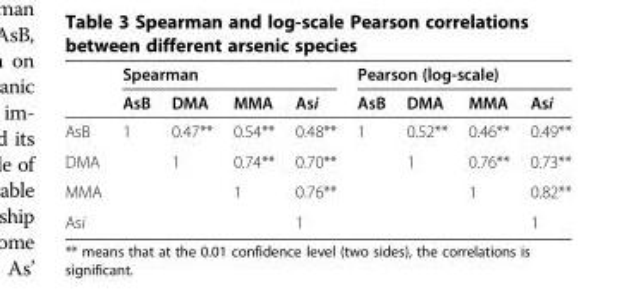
<table><thead><tr><td rowspan="2"></td><td colspan="4">Spearman</td><td colspan="4">Pearson (log-scale)</td></tr><tr><td>AsB</td><td>DMA</td><td>MMA</td><td>Asi</td><td>AsB</td><td>DMA</td><td>MMA</td><td>Asi</td></tr></thead><tbody><tr><td>AsB</td><td>1</td><td>0.47**</td><td>0.54**</td><td>0.48**</td><td>1</td><td>0.52**</td><td>0.46**</td><td>0.49**</td></tr><tr><td>DMA</td><td></td><td>1</td><td>0.74**</td><td>0.70**</td><td></td><td>1</td><td>0.76**</td><td>0.73**</td></tr><tr><td>MMA</td><td></td><td></td><td>1</td><td>0.76**</td><td></td><td></td><td>1</td><td>0.82**</td></tr><tr><td>Asi</td><td></td><td></td><td></td><td>1</td><td></td><td></td><td></td><td>1</td></tr></tbody></table>